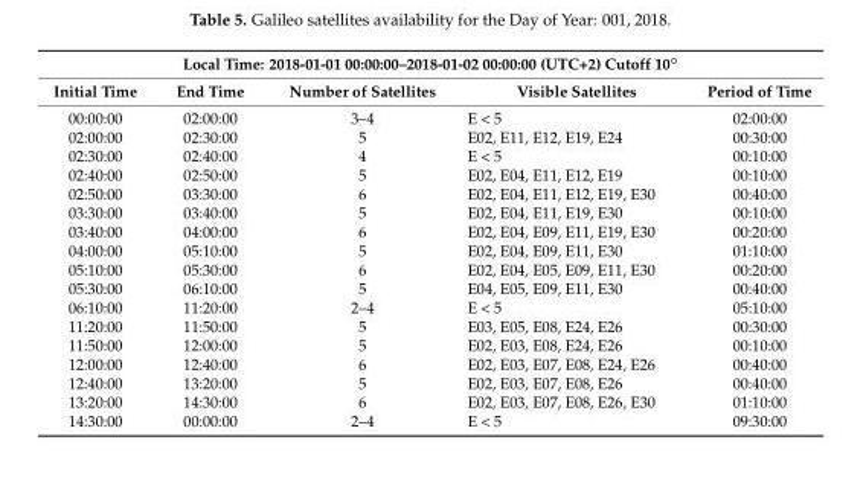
<table><thead><tr><td colspan="5">Local Time: 2018-01-01 00:00:00–2018-01-02 00:00:00 (UTC+2) Cutoff 10◦</td></tr><tr><td>Initial Time</td><td>End Time</td><td>Number of Satellites</td><td>Visible Satellites</td><td>Period of Time</td></tr></thead><tbody><tr><td>00:00:00</td><td>02:00:00</td><td>3–4</td><td>E &lt; 5</td><td>02:00:00</td></tr><tr><td>02:00:00</td><td>02:30:00</td><td>5</td><td>E02, E11, E12, E19, E24</td><td>00:30:00</td></tr><tr><td>02:30:00</td><td>02:40:00</td><td>4</td><td>E &lt; 5</td><td>00:10:00</td></tr><tr><td>02:40:00</td><td>02:50:00</td><td>5</td><td>E02, E04, E11, E12, E19</td><td>00:10:00</td></tr><tr><td>02:50:00</td><td>03:30:00</td><td>6</td><td>E02, E04, E11, E12, E19, E30</td><td>00:40:00</td></tr><tr><td>03:30:00</td><td>03:40:00</td><td>5</td><td>E02, E04, E11, E19, E30</td><td>00:10:00</td></tr><tr><td>03:40:00</td><td>04:00:00</td><td>6</td><td>E02, E04, E09, E11, E19, E30</td><td>00:20:00</td></tr><tr><td>04:00:00</td><td>05:10:00</td><td>5</td><td>E02, E04, E09, E11, E30</td><td>01:10:00</td></tr><tr><td>05:10:00</td><td>05:30:00</td><td>6</td><td>E02, E04, E05, E09, E11, E30</td><td>00:20:00</td></tr><tr><td>05:30:00</td><td>06:10:00</td><td>5</td><td>E04, E05, E09, E11, E30</td><td>00:40:00</td></tr><tr><td>06:10:00</td><td>11:20:00</td><td>2–4</td><td>E &lt; 5</td><td>05:10:00</td></tr><tr><td>11:20:00</td><td>11:50:00</td><td>5</td><td>E03, E05, E08, E24, E26</td><td>00:30:00</td></tr><tr><td>11:50:00</td><td>12:00:00</td><td>5</td><td>E02, E03, E08, E24, E26</td><td>00:10:00</td></tr><tr><td>12:00:00</td><td>12:40:00</td><td>6</td><td>E02, E03, E07, E08, E24, E26</td><td>00:40:00</td></tr><tr><td>12:40:00</td><td>13:20:00</td><td>5</td><td>E02, E03, E07, E08, E26</td><td>00:40:00</td></tr><tr><td>13:20:00</td><td>14:30:00</td><td>6</td><td>E02, E03, E07, E08, E26, E30</td><td>01:10:00</td></tr><tr><td>14:30:00</td><td>00:00:00</td><td>2–4</td><td>E &lt; 5</td><td>09:30:00</td></tr></tbody></table>